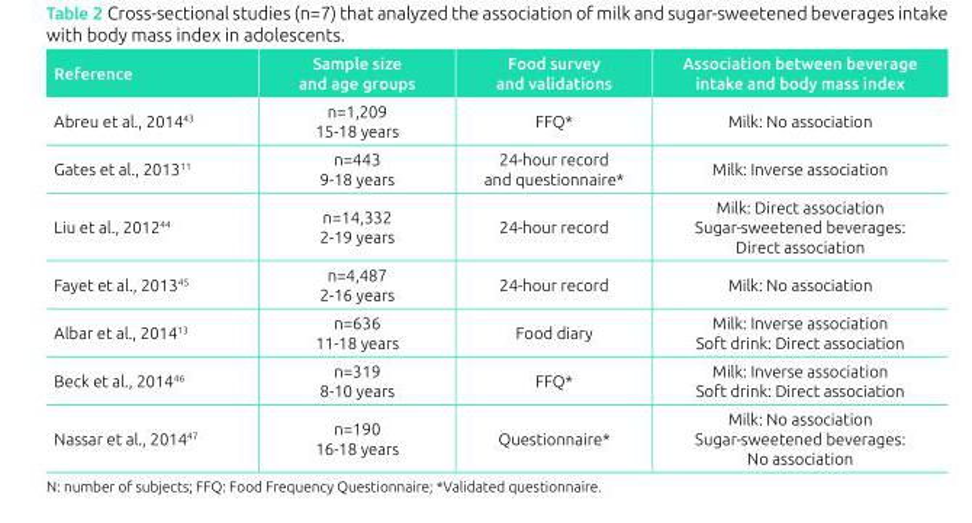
<table><thead><tr><td>Reference</td><td>Sample size and age groups</td><td>Food survey and validations</td><td>Association between beverage intake and body mass index</td></tr></thead><tbody><tr><td>Abreu et al., 2014<sup>43</sup></td><td>n=1,209 15-18 years</td><td>FFQ*</td><td>Milk: No association</td></tr><tr><td>Gates et al., 2013<sup>11</sup></td><td>n=443 9-18 years</td><td>24-hour record and questionnaire*</td><td>Milk: Inverse association</td></tr><tr><td>Liu et al., 2012<sup>44</sup></td><td>n=14,332 2-19 years</td><td>24-hour record</td><td>Milk: Direct association Sugar-sweetened beverages: Direct association</td></tr><tr><td>Fayet et al., 2013<sup>45</sup></td><td>n=4,487 2-16 years</td><td>24-hour record</td><td>Milk: No association</td></tr><tr><td>Albar et al., 2014<sup>13</sup></td><td>n=636 11-18 years</td><td>Food diary</td><td>Milk: Inverse association Soft drink: Direct association</td></tr><tr><td>Beck et al., 2014<sup>46</sup></td><td>n=319 8-10 years</td><td>FFQ*</td><td>Milk: Inverse association Soft drink: Direct association</td></tr><tr><td>Nassar et al., 2014<sup>47</sup></td><td>n=190 16-18 years</td><td>Questionnaire*</td><td>Milk: No association Sugar-sweetened beverages: No association</td></tr></tbody></table>